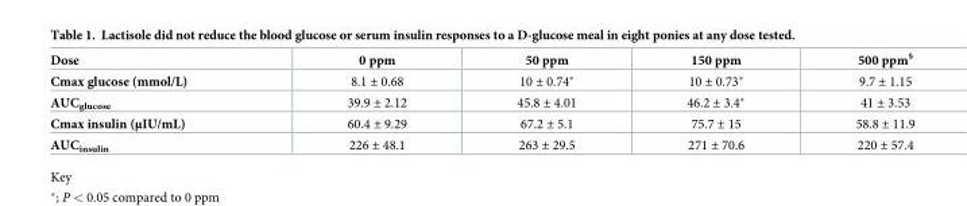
<table><thead><tr><td>Dose</td><td>0 ppm</td><td>50 ppm</td><td>150 ppm</td><td>500 ppm<sup>§</sup></td></tr></thead><tbody><tr><td>Cmax glucose (mmol/L)</td><td>8.1 ± 0.68</td><td>10 ± 0.74*</td><td>10 ± 0.73*</td><td>9.7 ± 1.15</td></tr><tr><td>AUC<sub>glucose</sub></td><td>39.9 ± 2.12</td><td>45.8 ± 4.01</td><td>46.2 ± 3.4*</td><td>41 ± 3.53</td></tr><tr><td>Cmax insulin (μIU/mL)</td><td>60.4 ± 9.29</td><td>67.2 ± 5.1</td><td>75.7 ± 15</td><td>58.8 ± 11.9</td></tr><tr><td>AUC<sub>insulin</sub></td><td>226 ± 48.1</td><td>263 ± 29.5</td><td>271 ± 70.6</td><td>220 ± 57.4</td></tr></tbody></table>